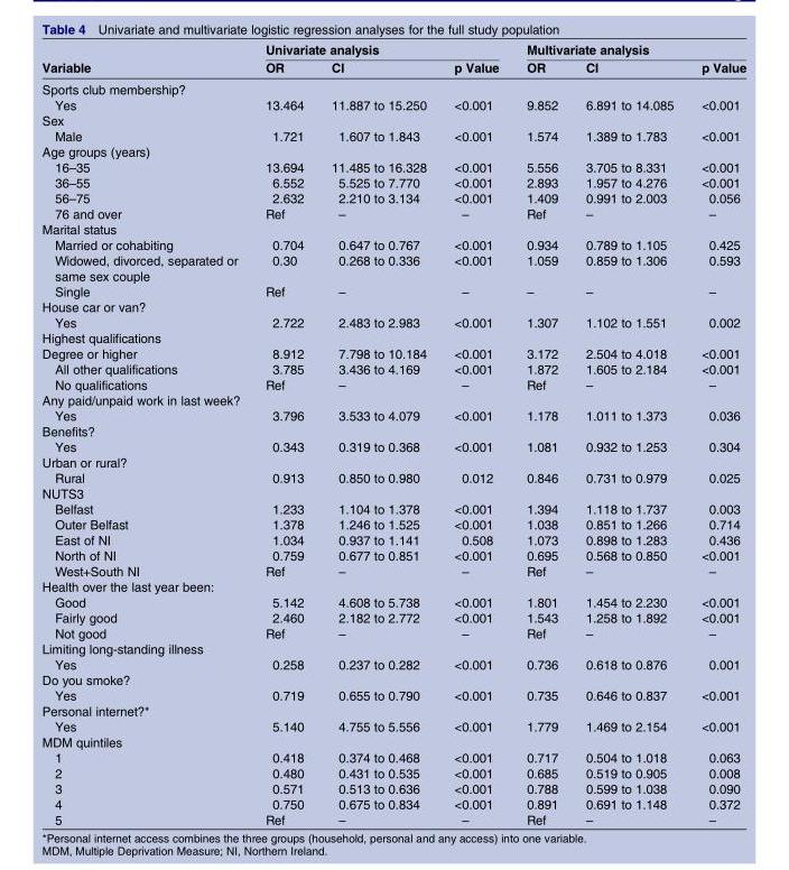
<table><thead><tr><td rowspan="2">Variable</td><td colspan="3">Univariate analysis</td><td colspan="3">Multivariate analysis</td></tr><tr><td>OR</td><td>CI</td><td>p Value</td><td>OR</td><td>CI</td><td>p Value</td></tr></thead><tbody><tr><td colspan="7">Sports club membership?</td></tr><tr><td>Yes</td><td>13.464</td><td>11.887 to 15.250</td><td>&lt;0.001</td><td>9.852</td><td>6.891 to 14.085</td><td>&lt;0.001</td></tr><tr><td colspan="7">Sex</td></tr><tr><td>Male</td><td>1.721</td><td>1.607 to 1.843</td><td>&lt;0.001</td><td>1.574</td><td>1.389 to 1.783</td><td>&lt;0.001</td></tr><tr><td colspan="7">Age groups (years)</td></tr><tr><td>16–35</td><td>13.694</td><td>11.485 to 16.328</td><td>&lt;0.001</td><td>5.556</td><td>3.705 to 8.331</td><td>&lt;0.001</td></tr><tr><td>36–55</td><td>6.552</td><td>5.525 to 7.770</td><td>&lt;0.001</td><td>2.893</td><td>1.957 to 4.276</td><td>&lt;0.001</td></tr><tr><td>56–75</td><td>2.632</td><td>2.210 to 3.134</td><td>&lt;0.001</td><td>1.409</td><td>0.991 to 2.003</td><td>0.056</td></tr><tr><td>76 and over</td><td>Ref</td><td>–</td><td>–</td><td>Ref</td><td>–</td><td>–</td></tr><tr><td colspan="7">Marital status</td></tr><tr><td>Married or cohabiting</td><td>0.704</td><td>0.647 to 0.767</td><td>&lt;0.001</td><td>0.934</td><td>0.789 to 1.105</td><td>0.425</td></tr><tr><td>Widowed, divorced, separated or same sex couple</td><td>0.30</td><td>0.268 to 0.336</td><td>&lt;0.001</td><td>1.059</td><td>0.859 to 1.306</td><td>0.593</td></tr><tr><td>Single</td><td>Ref</td><td>–</td><td>–</td><td>–</td><td>–</td><td>–</td></tr><tr><td colspan="7">House car or van?</td></tr><tr><td>Yes</td><td>2.722</td><td>2.483 to 2.983</td><td>&lt;0.001</td><td>1.307</td><td>1.102 to 1.551</td><td>0.002</td></tr><tr><td colspan="7">Highest qualifications</td></tr><tr><td>Degree or higher</td><td>8.912</td><td>7.798 to 10.184</td><td>&lt;0.001</td><td>3.172</td><td>2.504 to 4.018</td><td>&lt;0.001</td></tr><tr><td>All other qualifications</td><td>3.785</td><td>3.436 to 4.169</td><td>&lt;0.001</td><td>1.872</td><td>1.605 to 2.184</td><td>&lt;0.001</td></tr><tr><td>No qualifications</td><td>Ref</td><td>–</td><td>–</td><td>Ref</td><td>–</td><td>–</td></tr><tr><td colspan="7">Any paid/unpaid work in last week?</td></tr><tr><td>Yes</td><td>3.796</td><td>3.533 to 4.079</td><td>&lt;0.001</td><td>1.178</td><td>1.011 to 1.373</td><td>0.036</td></tr><tr><td colspan="7">Benefits?</td></tr><tr><td>Yes</td><td>0.343</td><td>0.319 to 0.368</td><td>&lt;0.001</td><td>1.081</td><td>0.932 to 1.253</td><td>0.304</td></tr><tr><td colspan="7">Urban or rural?</td></tr><tr><td>Rural</td><td>0.913</td><td>0.850 to 0.980</td><td>0.012</td><td>0.846</td><td>0.731 to 0.979</td><td>0.025</td></tr><tr><td colspan="7">NUTS3</td></tr><tr><td>Belfast</td><td>1.233</td><td>1.104 to 1.378</td><td>&lt;0.001</td><td>1.394</td><td>1.118 to 1.737</td><td>0.003</td></tr><tr><td>Outer Belfast</td><td>1.378</td><td>1.246 to 1.525</td><td>&lt;0.001</td><td>1.038</td><td>0.851 to 1.266</td><td>0.714</td></tr><tr><td>East of NI</td><td>1.034</td><td>0.937 to 1.141</td><td>0.508</td><td>1.073</td><td>0.898 to 1.283</td><td>0.436</td></tr><tr><td>North of NI</td><td>0.759</td><td>0.677 to 0.851</td><td>&lt;0.001</td><td>0.695</td><td>0.568 to 0.850</td><td>&lt;0.001</td></tr><tr><td>West+South NI</td><td>Ref</td><td>–</td><td>–</td><td>Ref</td><td>–</td><td>–</td></tr><tr><td colspan="7">Health over the last year been:</td></tr><tr><td>Good</td><td>5.142</td><td>4.608 to 5.738</td><td>&lt;0.001</td><td>1.801</td><td>1.454 to 2.230</td><td>&lt;0.001</td></tr><tr><td>Fairly good</td><td>2.460</td><td>2.182 to 2.772</td><td>&lt;0.001</td><td>1.543</td><td>1.258 to 1.892</td><td>&lt;0.001</td></tr><tr><td>Not good</td><td>Ref</td><td>–</td><td>–</td><td>Ref</td><td>–</td><td>–</td></tr><tr><td colspan="7">Limiting long-standing illness</td></tr><tr><td>Yes</td><td>0.258</td><td>0.237 to 0.282</td><td>&lt;0.001</td><td>0.736</td><td>0.618 to 0.876</td><td>0.001</td></tr><tr><td colspan="7">Do you smoke?</td></tr><tr><td>Yes</td><td>0.719</td><td>0.655 to 0.790</td><td>&lt;0.001</td><td>0.735</td><td>0.646 to 0.837</td><td>&lt;0.001</td></tr><tr><td colspan="7">Personal internet?*</td></tr><tr><td>Yes</td><td>5.140</td><td>4.755 to 5.556</td><td>&lt;0.001</td><td>1.779</td><td>1.469 to 2.154</td><td>&lt;0.001</td></tr><tr><td colspan="7">MDM quintiles</td></tr><tr><td>1</td><td>0.418</td><td>0.374 to 0.468</td><td>&lt;0.001</td><td>0.717</td><td>0.504 to 1.018</td><td>0.063</td></tr><tr><td>2</td><td>0.480</td><td>0.431 to 0.535</td><td>&lt;0.001</td><td>0.685</td><td>0.519 to 0.905</td><td>0.008</td></tr><tr><td>3</td><td>0.571</td><td>0.513 to 0.636</td><td>&lt;0.001</td><td>0.788</td><td>0.599 to 1.038</td><td>0.090</td></tr><tr><td>4</td><td>0.750</td><td>0.675 to 0.834</td><td>&lt;0.001</td><td>0.891</td><td>0.691 to 1.148</td><td>0.372</td></tr><tr><td>5</td><td>Ref</td><td>–</td><td>–</td><td>Ref</td><td>–</td><td>–</td></tr></tbody></table>